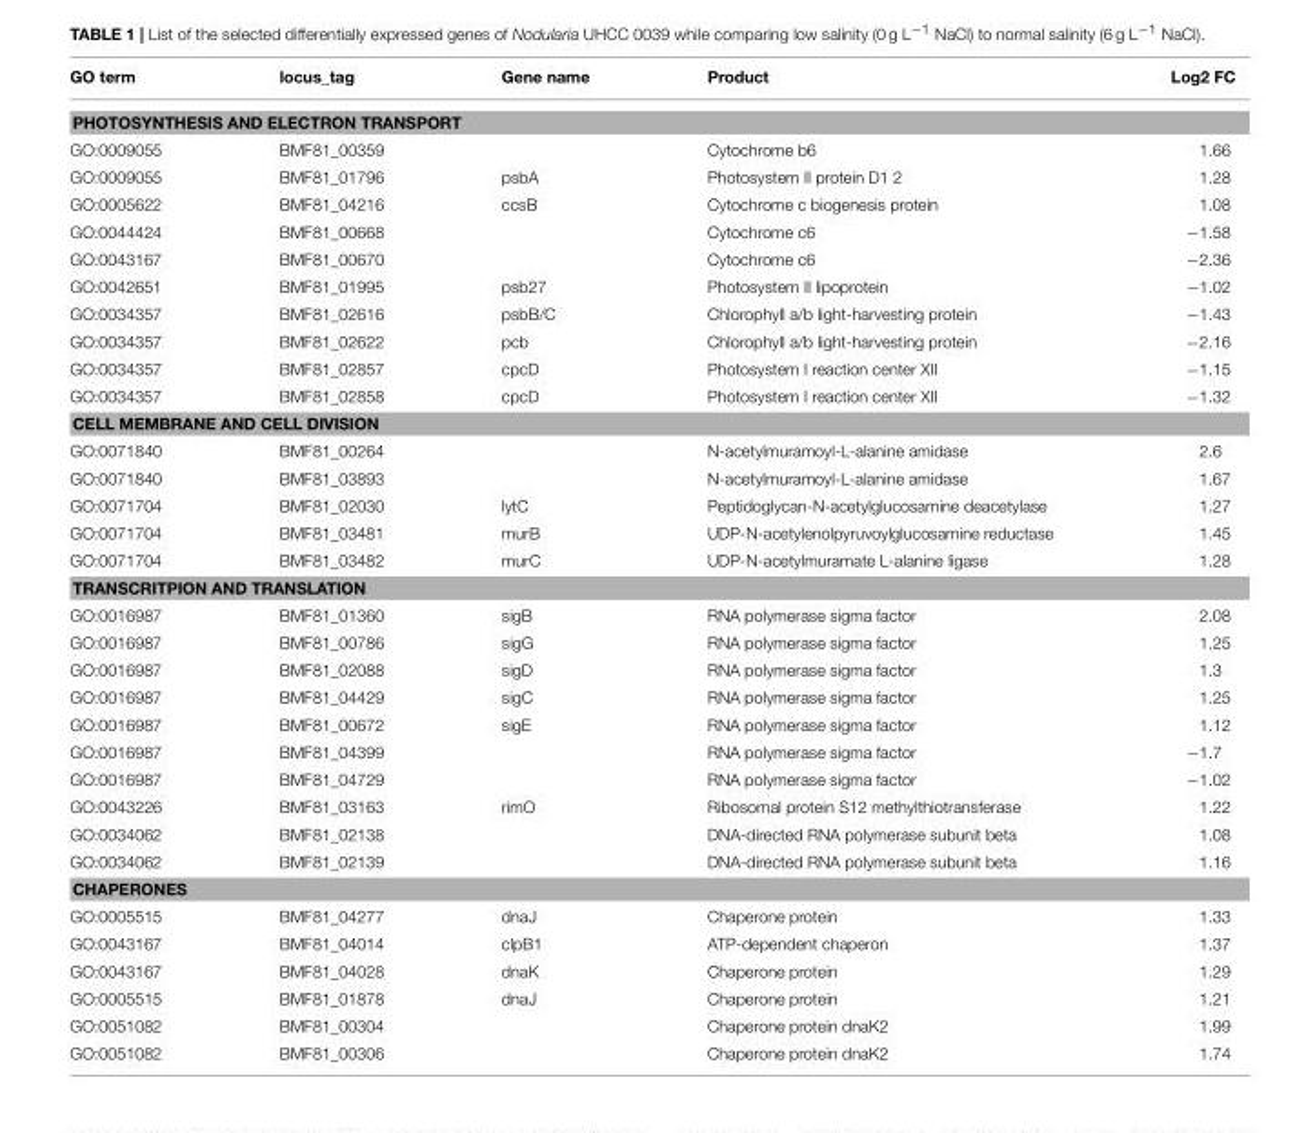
<table><thead><tr><td>GO term</td><td>locus_tag</td><td>Gene name</td><td>Product</td><td>Log2 FC</td></tr></thead><tbody><tr><td colspan="5">PHOTOSYNTHESIS AND ELECTRON TRANSPORT</td></tr><tr><td>GO:0009055</td><td>BMF81_00359</td><td></td><td>Cytochrome b6</td><td>1.66</td></tr><tr><td>GO:0009055</td><td>BMF81_01796</td><td>psbA</td><td>Photosystem II protein D1 2</td><td>1.28</td></tr><tr><td>GO:0005622</td><td>BMF81_04216</td><td>ccsB</td><td>Cytochrome c biogenesis protein</td><td>1.08</td></tr><tr><td>GO:0044424</td><td>BMF81_00668</td><td></td><td>Cytochrome c6</td><td>−1.58</td></tr><tr><td>GO:0043167</td><td>BMF81_00670</td><td></td><td>Cytochrome c6</td><td>−2.36</td></tr><tr><td>GO:0042651</td><td>BMF81_01995</td><td>psb27</td><td>Photosystem II lipoprotein</td><td>−1.02</td></tr><tr><td>GO:0034357</td><td>BMF81_02616</td><td>psbB/C</td><td>Chlorophyll a/b light-harvesting protein</td><td>−1.43</td></tr><tr><td>GO:0034357</td><td>BMF81_02622</td><td>pcb</td><td>Chlorophyll a/b light-harvesting protein</td><td>−2.16</td></tr><tr><td>GO:0034357</td><td>BMF81_02857</td><td>cpcD</td><td>Photosystem I reaction center XII</td><td>−1.15</td></tr><tr><td>GO:0034357</td><td>BMF81_02858</td><td>cpcD</td><td>Photosystem I reaction center XII</td><td>−1.32</td></tr><tr><td colspan="5">CELL MEMBRANE AND CELL DIVISION</td></tr><tr><td>GO:0071840</td><td>BMF81_00264</td><td></td><td>N-acetylmuramoyl-L-alanine amidase</td><td>2.6</td></tr><tr><td>GO:0071840</td><td>BMF81_03893</td><td></td><td>N-acetylmuramoyl-L-alanine amidase</td><td>1.67</td></tr><tr><td>GO:0071704</td><td>BMF81_02030</td><td>lytC</td><td>Peptidoglycan-N-acetylglucosamine deacetylase</td><td>1.27</td></tr><tr><td>GO:0071704</td><td>BMF81_03481</td><td>murB</td><td>UDP-N-acetylenolpyruvoylglucosamine reductase</td><td>1.45</td></tr><tr><td>GO:0071704</td><td>BMF81_03482</td><td>murC</td><td>UDP-N-acetylmuramate L-alanine ligase</td><td>1.28</td></tr><tr><td colspan="5">TRANSCRITPION AND TRANSLATION</td></tr><tr><td>GO:0016987</td><td>BMF81_01360</td><td>sigB</td><td>RNA polymerase sigma factor</td><td>2.08</td></tr><tr><td>GO:0016987</td><td>BMF81_00786</td><td>sigG</td><td>RNA polymerase sigma factor</td><td>1.25</td></tr><tr><td>GO:0016987</td><td>BMF81_02088</td><td>sigD</td><td>RNA polymerase sigma factor</td><td>1.3</td></tr><tr><td>GO:0016987</td><td>BMF81_04429</td><td>sigC</td><td>RNA polymerase sigma factor</td><td>1.25</td></tr><tr><td>GO:0016987</td><td>BMF81_00672</td><td>sigE</td><td>RNA polymerase sigma factor</td><td>1.12</td></tr><tr><td>GO:0016987</td><td>BMF81_04399</td><td></td><td>RNA polymerase sigma factor</td><td>−1.7</td></tr><tr><td>GO:0016987</td><td>BMF81_04729</td><td></td><td>RNA polymerase sigma factor</td><td>−1.02</td></tr><tr><td>GO:0043226</td><td>BMF81_03163</td><td>rimO</td><td>Ribosomal protein S12 methylthiotransferase</td><td>1.22</td></tr><tr><td>GO:0034062</td><td>BMF81_02138</td><td></td><td>DNA-directed RNA polymerase subunit beta</td><td>1.08</td></tr><tr><td>GO:0034062</td><td>BMF81_02139</td><td></td><td>DNA-directed RNA polymerase subunit beta</td><td>1.16</td></tr><tr><td colspan="5">CHAPERONES</td></tr><tr><td>GO:0005515</td><td>BMF81_04277</td><td>dnaJ</td><td>Chaperone protein</td><td>1.33</td></tr><tr><td>GO:0043167</td><td>BMF81_04014</td><td>clpB1</td><td>ATP-dependent chaperon</td><td>1.37</td></tr><tr><td>GO:0043167</td><td>BMF81_04028</td><td>dnaK</td><td>Chaperone protein</td><td>1.29</td></tr><tr><td>GO:0005515</td><td>BMF81_01878</td><td>dnaJ</td><td>Chaperone protein</td><td>1.21</td></tr><tr><td>GO:0051082</td><td>BMF81_00304</td><td></td><td>Chaperone protein dnaK2</td><td>1.99</td></tr><tr><td>GO:0051082</td><td>BMF81_00306</td><td></td><td>Chaperone protein dnaK2</td><td>1.74</td></tr></tbody></table>